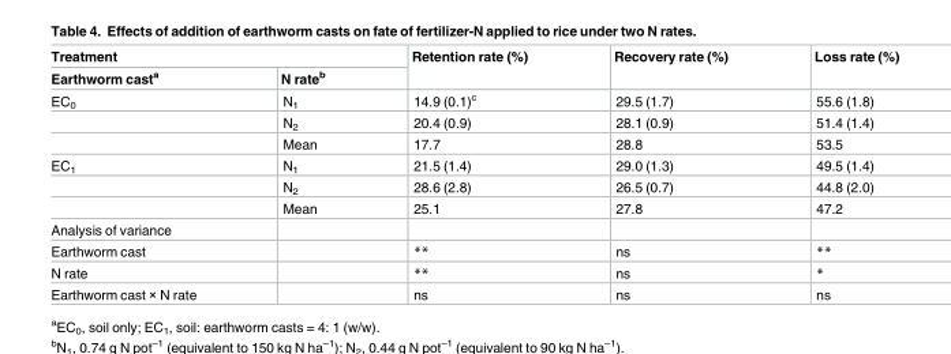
<table><thead><tr><td colspan="2">Treatment</td><td rowspan="2">Retention rate (%)</td><td rowspan="2">Recovery rate (%)</td><td rowspan="2">Loss rate (%)</td></tr><tr><td>Earthworm cast<sup>a</sup></td><td>N rate<sup>b</sup></td></tr></thead><tbody><tr><td rowspan="3">EC<sub>0</sub></td><td>N<sub>1</sub></td><td>14.9 (0.1)<sup>c</sup></td><td>29.5 (1.7)</td><td>55.6 (1.8)</td></tr><tr><td>N<sub>2</sub></td><td>20.4 (0.9)</td><td>28.1 (0.9)</td><td>51.4 (1.4)</td></tr><tr><td>Mean</td><td>17.7</td><td>28.8</td><td>53.5</td></tr><tr><td rowspan="3">EC<sub>1</sub></td><td>N<sub>1</sub></td><td>21.5 (1.4)</td><td>29.0 (1.3)</td><td>49.5 (1.4)</td></tr><tr><td>N<sub>2</sub></td><td>28.6 (2.8)</td><td>26.5 (0.7)</td><td>44.8 (2.0)</td></tr><tr><td>Mean</td><td>25.1</td><td>27.8</td><td>47.2</td></tr><tr><td colspan="5">Analysis of variance</td></tr><tr><td>Earthworm cast</td><td></td><td>**</td><td>ns</td><td>**</td></tr><tr><td>N rate</td><td></td><td>**</td><td>ns</td><td>*</td></tr><tr><td>Earthworm cast × N rate</td><td></td><td>ns</td><td>ns</td><td>ns</td></tr></tbody></table>